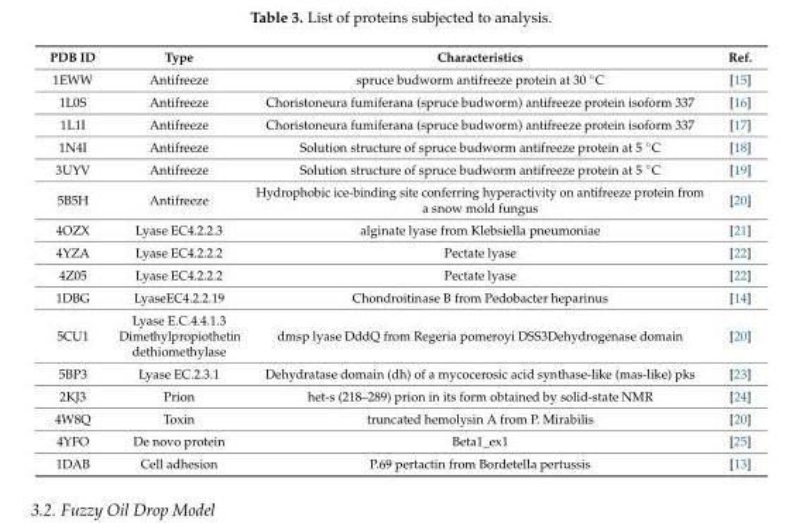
<table><thead><tr><td>PDB ID</td><td>Type</td><td>Characteristics</td><td>Ref.</td></tr></thead><tbody><tr><td>1EWW</td><td>Antifreeze</td><td>spruce budworm antifreeze protein at 30 ◦C</td><td>[15]</td></tr><tr><td>1L0S</td><td>Antifreeze</td><td>Choristoneura fumiferana (spruce budworm) antifreeze protein isoform 337</td><td>[16]</td></tr><tr><td>1L1I</td><td>Antifreeze</td><td>Choristoneura fumiferana (spruce budworm) antifreeze protein isoform 337</td><td>[17]</td></tr><tr><td>1N4I</td><td>Antifreeze</td><td>Solution structure of spruce budworm antifreeze protein at 5 ◦C</td><td>[18]</td></tr><tr><td>3UYV</td><td>Antifreeze</td><td>Solution structure of spruce budworm antifreeze protein at 5 ◦C</td><td>[19]</td></tr><tr><td>5B5H</td><td>Antifreeze</td><td>Hydrophobic ice-binding site conferring hyperactivity on antifreeze protein from a snow mold fungus</td><td>[20]</td></tr><tr><td>4OZX</td><td>Lyase EC4.2.2.3</td><td>alginate lyase from Klebsiella pneumoniae</td><td>[21]</td></tr><tr><td>4YZA</td><td>Lyase EC4.2.2.2</td><td>Pectate lyase</td><td>[22]</td></tr><tr><td>4Z05</td><td>Lyase EC4.2.2.2</td><td>Pectate lyase</td><td>[22]</td></tr><tr><td>1DBG</td><td>LyaseEC4.2.2.19</td><td>Chondroitinase B from Pedobacter heparinus</td><td>[14]</td></tr><tr><td>5CU1</td><td>Lyase E.C.4.4.1.3 Dimethylpropiothetin dethiomethylase</td><td>dmsp lyase DddQ from Regeria pomeroyi DSS3Dehydrogenase domain</td><td>[20]</td></tr><tr><td>5BP3</td><td>Lyase EC.2.3.1</td><td>Dehydratase domain (dh) of a mycocerosic acid synthase-like (mas-like) pks</td><td>[23]</td></tr><tr><td>2KJ3</td><td>Prion</td><td>het-s (218–289) prion in its form obtained by solid-state NMR</td><td>[24]</td></tr><tr><td>4W8Q</td><td>Toxin</td><td>truncated hemolysin A from P. Mirabilis</td><td>[20]</td></tr><tr><td>4YFO</td><td>De novo protein</td><td>Beta1_ex1</td><td>[25]</td></tr><tr><td>1DAB</td><td>Cell adhesion</td><td>P.69 pertactin from Bordetella pertussis</td><td>[13]</td></tr></tbody></table>